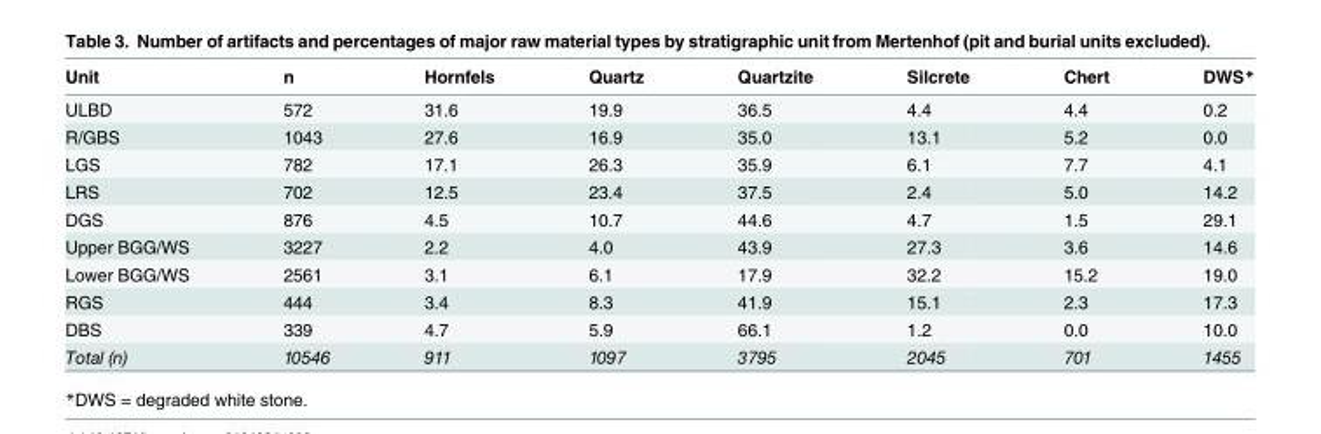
<table><thead><tr><td>Unit</td><td>n</td><td>Hornfels</td><td>Quartz</td><td>Quartzite</td><td>Silcrete</td><td>Chert</td><td>DWS*</td></tr></thead><tbody><tr><td>ULBD</td><td>572</td><td>31.6</td><td>19.9</td><td>36.5</td><td>4.4</td><td>4.4</td><td>0.2</td></tr><tr><td>R/GBS</td><td>1043</td><td>27.6</td><td>16.9</td><td>35.0</td><td>13.1</td><td>5.2</td><td>0.0</td></tr><tr><td>LGS</td><td>782</td><td>17.1</td><td>26.3</td><td>35.9</td><td>6.1</td><td>7.7</td><td>4.1</td></tr><tr><td>LRS</td><td>702</td><td>12.5</td><td>23.4</td><td>37.5</td><td>2.4</td><td>5.0</td><td>14.2</td></tr><tr><td>DGS</td><td>876</td><td>4.5</td><td>10.7</td><td>44.6</td><td>4.7</td><td>1.5</td><td>29.1</td></tr><tr><td>Upper BGG/WS</td><td>3227</td><td>2.2</td><td>4.0</td><td>43.9</td><td>27.3</td><td>3.6</td><td>14.6</td></tr><tr><td>Lower BGG/WS</td><td>2561</td><td>3.1</td><td>6.1</td><td>17.9</td><td>32.2</td><td>15.2</td><td>19.0</td></tr><tr><td>RGS</td><td>444</td><td>3.4</td><td>8.3</td><td>41.9</td><td>15.1</td><td>2.3</td><td>17.3</td></tr><tr><td>DBS</td><td>339</td><td>4.7</td><td>5.9</td><td>66.1</td><td>1.2</td><td>0.0</td><td>10.0</td></tr><tr><td>Total (n)</td><td>10546</td><td>911</td><td>1097</td><td>3795</td><td>2045</td><td>701</td><td>1455</td></tr></tbody></table>